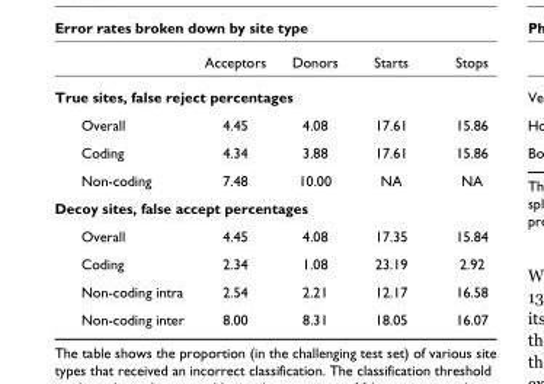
<table><thead><tr><td></td><td>Acceptors</td><td>Donors</td><td>Starts</td><td>Stops</td></tr></thead><tbody><tr><td colspan="5">True sites, false reject percentages</td></tr><tr><td>Overall</td><td>4.45</td><td>4.08</td><td>17.61</td><td>15.86</td></tr><tr><td>Coding</td><td>4.34</td><td>3.88</td><td>17.61</td><td>15.86</td></tr><tr><td>Non-coding</td><td>7.48</td><td>10.00</td><td>NA</td><td>NA</td></tr><tr><td colspan="5">Decoy sites, false accept percentages</td></tr><tr><td>Overall</td><td>4.45</td><td>4.08</td><td>17.35</td><td>15.84</td></tr><tr><td>Coding</td><td>2.34</td><td>1.08</td><td>23.19</td><td>2.92</td></tr><tr><td>Non-coding intra</td><td>2.54</td><td>2.21</td><td>12.17</td><td>16.58</td></tr><tr><td>Non-coding inter</td><td>8.00</td><td>8.31</td><td>18.05</td><td>16.07</td></tr></tbody></table>